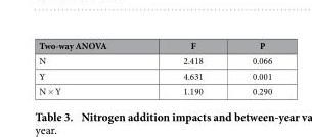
<table><thead><tr><td>Two-way ANOVA</td><td>F</td><td>P</td></tr></thead><tbody><tr><td>N</td><td>2.418</td><td>0.066</td></tr><tr><td>Y</td><td>4.631</td><td>0.001</td></tr><tr><td>N × Y</td><td>1.190</td><td>0.290</td></tr></tbody></table>